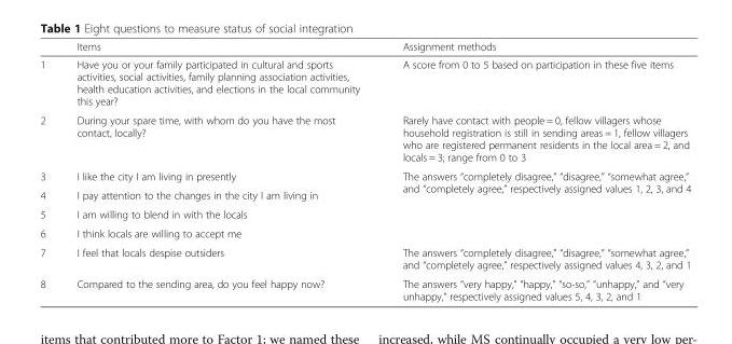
<table><thead><tr><td></td><td>Items</td><td>Assignment methods</td></tr></thead><tbody><tr><td>1</td><td>Have you or your family participated in cultural and sports activities, social activities, family planning association activities, health education activities, and elections in the local community this year?</td><td>A score from 0 to 5 based on participation in these five items</td></tr><tr><td>2</td><td>During your spare time, with whom do you have the most contact, locally?</td><td>Rarely have contact with people = 0, fellow villagers whose household registration is still in sending areas = 1, fellow villagers who are registered permanent residents in the local area = 2, and locals = 3; range from 0 to 3</td></tr><tr><td>3</td><td>I like the city I am living in presently</td><td rowspan="4">The answers “completely disagree,” “disagree,” “somewhat agree,” and “completely agree,” respectively assigned values 1, 2, 3, and 4</td></tr><tr><td>4</td><td>I pay attention to the changes in the city I am living in</td></tr><tr><td>5</td><td>I am willing to blend in with the locals</td></tr><tr><td>6</td><td>I think locals are willing to accept me</td></tr><tr><td>7</td><td>I feel that locals despise outsiders</td><td>The answers “completely disagree,” “disagree,” “somewhat agree,” and “completely agree,” respectively assigned values 4, 3, 2, and 1</td></tr><tr><td>8</td><td>Compared to the sending area, do you feel happy now?</td><td>The answers “very happy,” “happy,” “so-so,” “unhappy,” and “very unhappy,” respectively assigned values 5, 4, 3, 2, and 1</td></tr></tbody></table>